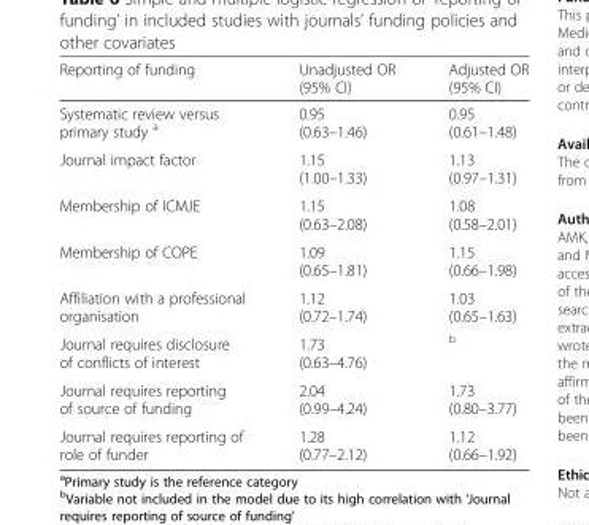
<table><thead><tr><td>Reporting of funding</td><td>Unadjusted OR (95% CI)</td><td>Adjusted OR (95% CI)</td></tr></thead><tbody><tr><td>Systematic review versus primary study <sup>a</sup></td><td>0.95 (0.63–1.46)</td><td>0.95 (0.61–1.48)</td></tr><tr><td>Journal impact factor</td><td>1.15 (1.00–1.33)</td><td>1.13 (0.97–1.31)</td></tr><tr><td>Membership of ICMJE</td><td>1.15 (0.63–2.08)</td><td>1.08 (0.58–2.01)</td></tr><tr><td>Membership of COPE</td><td>1.09 (0.65–1.81)</td><td>1.15 (0.66–1.98)</td></tr><tr><td>Affiliation with a professional organisation</td><td>1.12 (0.72–1.74)</td><td>1.03 (0.65–1.63)</td></tr><tr><td>Journal requires disclosure of conflicts of interest</td><td>1.73 (0.63–4.76)</td><td><sup>b</sup></td></tr><tr><td>Journal requires reporting of source of funding</td><td>2.04 (0.99–4.24)</td><td>1.73 (0.80–3.77)</td></tr><tr><td>Journal requires reporting of role of funder</td><td>1.28 (0.77–2.12)</td><td>1.12 (0.66–1.92)</td></tr></tbody></table>